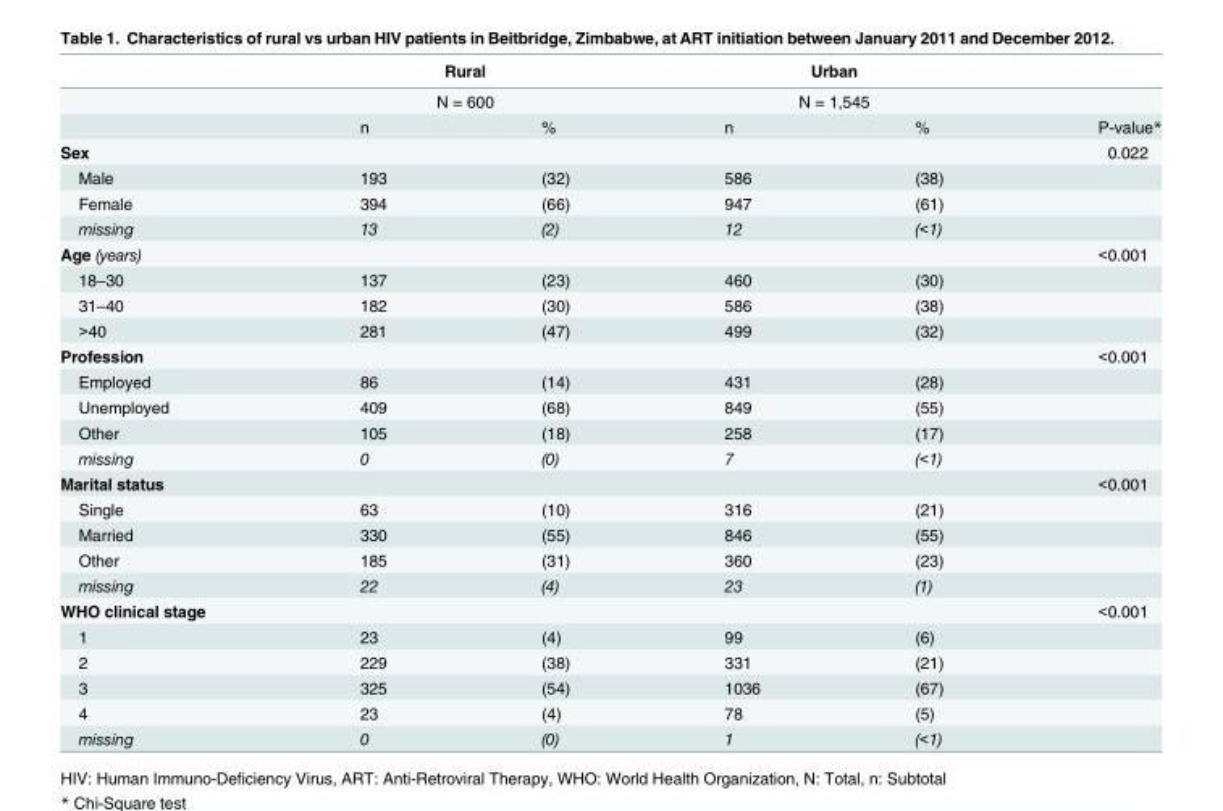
<table><thead><tr><td rowspan="3"></td><td rowspan="2" colspan="2">Rural N = 600</td><td rowspan="2" colspan="2">Urban N = 1,545</td><td rowspan="3">P-value*</td></tr><tr></tr><tr><td>n</td><td>%</td><td>n</td><td>%</td></tr></thead><tbody><tr><td>Sex</td><td colspan="2"></td><td colspan="2"></td><td>0.022</td></tr><tr><td>Male</td><td>193</td><td>(32)</td><td>586</td><td>(38)</td><td></td></tr><tr><td>Female</td><td>394</td><td>(66)</td><td>947</td><td>(61)</td><td></td></tr><tr><td>missing</td><td>13</td><td>(2)</td><td>12</td><td>(&lt;1)</td><td></td></tr><tr><td>Age (years)</td><td></td><td></td><td></td><td></td><td>&lt;0.001</td></tr><tr><td>18–30</td><td>137</td><td>(23)</td><td>460</td><td>(30)</td><td></td></tr><tr><td>31–40</td><td>182</td><td>(30)</td><td>586</td><td>(38)</td><td></td></tr><tr><td>&gt;40</td><td>281</td><td>(47)</td><td>499</td><td>(32)</td><td></td></tr><tr><td>Profession</td><td></td><td></td><td></td><td></td><td>&lt;0.001</td></tr><tr><td>Employed</td><td>86</td><td>(14)</td><td>431</td><td>(28)</td><td></td></tr><tr><td>Unemployed</td><td>409</td><td>(68)</td><td>849</td><td>(55)</td><td></td></tr><tr><td>Other</td><td>105</td><td>(18)</td><td>258</td><td>(17)</td><td></td></tr><tr><td>missing</td><td>0</td><td>(0)</td><td>7</td><td>(&lt;1)</td><td></td></tr><tr><td>Marital status</td><td></td><td></td><td></td><td></td><td>&lt;0.001</td></tr><tr><td>Single</td><td>63</td><td>(10)</td><td>316</td><td>(21)</td><td></td></tr><tr><td>Married</td><td>330</td><td>(55)</td><td>846</td><td>(55)</td><td></td></tr><tr><td>Other</td><td>185</td><td>(31)</td><td>360</td><td>(23)</td><td></td></tr><tr><td>missing</td><td>22</td><td>(4)</td><td>23</td><td>(1)</td><td></td></tr><tr><td>WHO clinical stage</td><td></td><td></td><td></td><td></td><td>&lt;0.001</td></tr><tr><td>1</td><td>23</td><td>(4)</td><td>99</td><td>(6)</td><td></td></tr><tr><td>2</td><td>229</td><td>(38)</td><td>331</td><td>(21)</td><td></td></tr><tr><td>3</td><td>325</td><td>(54)</td><td>1036</td><td>(67)</td><td></td></tr><tr><td>4</td><td>23</td><td>(4)</td><td>78</td><td>(5)</td><td></td></tr><tr><td>missing</td><td>0</td><td>(0)</td><td>1</td><td>(&lt;1)</td><td></td></tr></tbody></table>